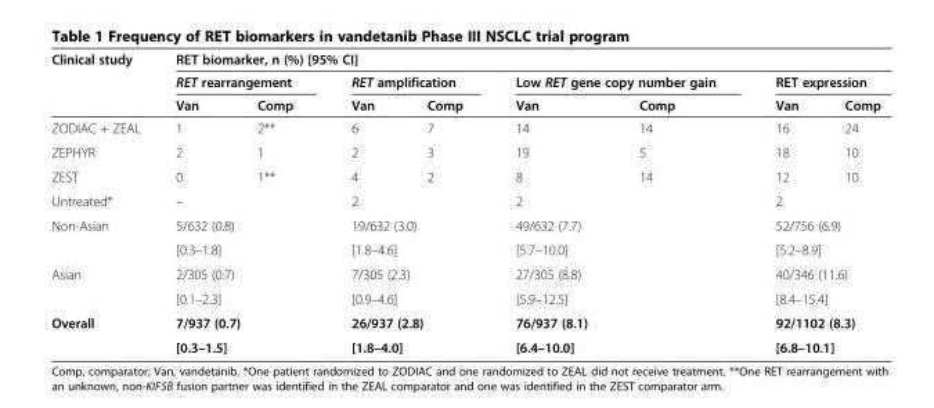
<table><thead><tr><td rowspan="3">Clinical study</td><td colspan="8">RET biomarker, n (%) [95% CI]</td></tr><tr><td colspan="2">RET rearrangement</td><td colspan="2">RET amplification</td><td colspan="2">Low RET gene copy number gain</td><td colspan="2">RET expression</td></tr><tr><td>Van</td><td>Comp</td><td>Van</td><td>Comp</td><td>Van</td><td>Comp</td><td>Van</td><td>Comp</td></tr></thead><tbody><tr><td>ZODIAC + ZEAL</td><td>1</td><td>2**</td><td>6</td><td>7</td><td>14</td><td>14</td><td>16</td><td>24</td></tr><tr><td>ZEPHYR</td><td>2</td><td>1</td><td>2</td><td>3</td><td>19</td><td>5</td><td>18</td><td>10</td></tr><tr><td>ZEST</td><td>0</td><td>1**</td><td>4</td><td>2</td><td>8</td><td>14</td><td>12</td><td>10</td></tr><tr><td>Untreated*</td><td colspan="2">–</td><td colspan="2">2</td><td colspan="2">2</td><td colspan="2">2</td></tr><tr><td rowspan="2">Non-Asian</td><td colspan="2">5/632 (0.8)</td><td colspan="2">19/632 (3.0)</td><td colspan="2">49/632 (7.7)</td><td colspan="2">52/756 (6.9)</td></tr><tr><td colspan="2">[0.3–1.8]</td><td colspan="2">[1.8–4.6]</td><td colspan="2">[5.7–10.0]</td><td colspan="2">[5.2–8.9]</td></tr><tr><td rowspan="2">Asian</td><td colspan="2">2/305 (0.7)</td><td colspan="2">7/305 (2.3)</td><td colspan="2">27/305 (8.8)</td><td colspan="2">40/346 (11.6)</td></tr><tr><td colspan="2">[0.1–2.3]</td><td colspan="2">[0.9–4.6]</td><td colspan="2">[5.9–12.5]</td><td colspan="2">[8.4–15.4]</td></tr><tr><td rowspan="2">Overall</td><td colspan="2">7/937 (0.7)</td><td colspan="2">26/937 (2.8)</td><td colspan="2">76/937 (8.1)</td><td colspan="2">92/1102 (8.3)</td></tr><tr><td colspan="2">[0.3–1.5]</td><td colspan="2">[1.8–4.0]</td><td colspan="2">[6.4–10.0]</td><td colspan="2">[6.8–10.1]</td></tr></tbody></table>